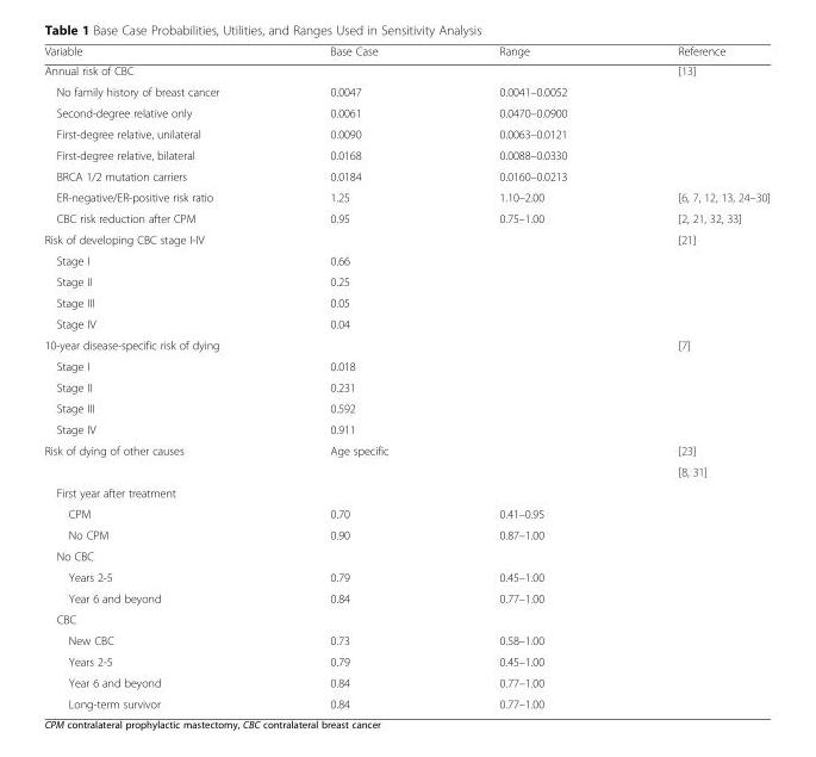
<table><thead><tr><td>Variable</td><td>Base Case</td><td>Range</td><td>Reference</td></tr></thead><tbody><tr><td>Annual risk of CBC</td><td></td><td></td><td>[13]</td></tr><tr><td>No family history of breast cancer</td><td>0.0047</td><td>0.0041–0.0052</td><td></td></tr><tr><td>Second-degree relative only</td><td>0.0061</td><td>0.0470–0.0900</td><td></td></tr><tr><td>First-degree relative, unilateral</td><td>0.0090</td><td>0.0063–0.0121</td><td></td></tr><tr><td>First-degree relative, bilateral</td><td>0.0168</td><td>0.0088–0.0330</td><td></td></tr><tr><td>BRCA 1/2 mutation carriers</td><td>0.0184</td><td>0.0160–0.0213</td><td></td></tr><tr><td>ER-negative/ER-positive risk ratio</td><td>1.25</td><td>1.10–2.00</td><td>[6, 7, 12, 13, 24–30]</td></tr><tr><td>CBC risk reduction after CPM</td><td>0.95</td><td>0.75–1.00</td><td>[2, 21, 32, 33]</td></tr><tr><td>Risk of developing CBC stage I-IV</td><td></td><td></td><td>[21]</td></tr><tr><td>Stage I</td><td>0.66</td><td></td><td></td></tr><tr><td>Stage II</td><td>0.25</td><td></td><td></td></tr><tr><td>Stage III</td><td>0.05</td><td></td><td></td></tr><tr><td>Stage IV</td><td>0.04</td><td></td><td></td></tr><tr><td>10-year disease-specific risk of dying</td><td></td><td></td><td>[7]</td></tr><tr><td>Stage I</td><td>0.018</td><td></td><td></td></tr><tr><td>Stage II</td><td>0.231</td><td></td><td></td></tr><tr><td>Stage III</td><td>0.592</td><td></td><td></td></tr><tr><td>Stage IV</td><td>0.911</td><td></td><td></td></tr><tr><td rowspan="2">Risk of dying of other causes</td><td>Age specific</td><td></td><td>[23]</td></tr><tr><td></td><td></td><td>[8, 31]</td></tr><tr><td colspan="4">First year after treatment</td></tr><tr><td>CPM</td><td>0.70</td><td>0.41–0.95</td><td></td></tr><tr><td>No CPM</td><td>0.90</td><td>0.87–1.00</td><td></td></tr><tr><td colspan="4">No CBC</td></tr><tr><td>Years 2-5</td><td>0.79</td><td>0.45–1.00</td><td></td></tr><tr><td>Year 6 and beyond</td><td>0.84</td><td>0.77–1.00</td><td></td></tr><tr><td colspan="4">CBC</td></tr><tr><td>New CBC</td><td>0.73</td><td>0.58–1.00</td><td></td></tr><tr><td>Years 2-5</td><td>0.79</td><td>0.45–1.00</td><td></td></tr><tr><td>Year 6 and beyond</td><td>0.84</td><td>0.77–1.00</td><td></td></tr><tr><td>Long-term survivor</td><td>0.84</td><td>0.77–1.00</td><td></td></tr></tbody></table>